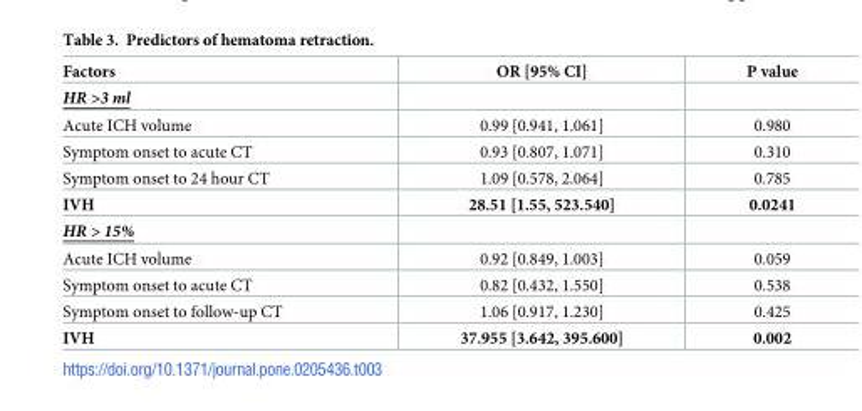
<table><thead><tr><td>Factors</td><td>OR [95% CI]</td><td>P value</td></tr></thead><tbody><tr><td colspan="3">HR &gt;3 ml</td></tr><tr><td>Acute ICH volume</td><td>0.99 [0.941, 1.061]</td><td>0.980</td></tr><tr><td>Symptom onset to acute CT</td><td>0.93 [0.807, 1.071]</td><td>0.310</td></tr><tr><td>Symptom onset to 24 hour CT</td><td>1.09 [0.578, 2.064]</td><td>0.785</td></tr><tr><td>IVH</td><td>28.51 [1.55, 523.540]</td><td>0.0241</td></tr><tr><td colspan="3">HR &gt; 15%</td></tr><tr><td>Acute ICH volume</td><td>0.92 [0.849, 1.003]</td><td>0.059</td></tr><tr><td>Symptom onset to acute CT</td><td>0.82 [0.432, 1.550]</td><td>0.538</td></tr><tr><td>Symptom onset to follow-up CT</td><td>1.06 [0.917, 1.230]</td><td>0.425</td></tr><tr><td>IVH</td><td>37.955 [3.642, 395.600]</td><td>0.002</td></tr></tbody></table>